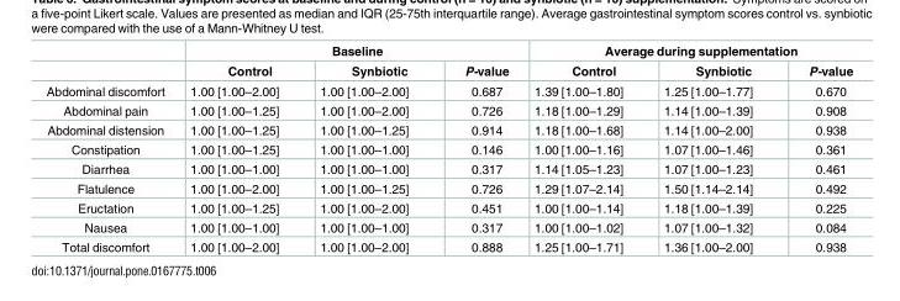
<table><thead><tr><td rowspan="2"></td><td colspan="3">Baseline</td><td colspan="3">Average during supplementation</td></tr><tr><td>Control</td><td>Synbiotic</td><td>P-value</td><td>Control</td><td>Synbiotic</td><td>P-value</td></tr></thead><tbody><tr><td>Abdominal discomfort</td><td>1.00 [1.00–2.00]</td><td>1.00 [1.00–2.00]</td><td>0.687</td><td>1.39 [1.00–1.80]</td><td>1.25 [1.00–1.77]</td><td>0.670</td></tr><tr><td>Abdominal pain</td><td>1.00 [1.00–1.25]</td><td>1.00 [1.00–2.00]</td><td>0.726</td><td>1.18 [1.00–1.29]</td><td>1.14 [1.00–1.39]</td><td>0.908</td></tr><tr><td>Abdominal distension</td><td>1.00 [1.00–1.25]</td><td>1.00 [1.00–1.25]</td><td>0.914</td><td>1.18 [1.00–1.68]</td><td>1.14 [1.00–2.00]</td><td>0.938</td></tr><tr><td>Constipation</td><td>1.00 [1.00–1.25]</td><td>1.00 [1.00–1.00]</td><td>0.146</td><td>1.00 [1.00–1.16]</td><td>1.07 [1.00–1.46]</td><td>0.361</td></tr><tr><td>Diarrhea</td><td>1.00 [1.00–1.00]</td><td>1.00 [1.00–1.00]</td><td>0.317</td><td>1.14 [1.05–1.23]</td><td>1.07 [1.00–1.23]</td><td>0.461</td></tr><tr><td>Flatulence</td><td>1.00 [1.00–2.00]</td><td>1.00 [1.00–1.25]</td><td>0.726</td><td>1.29 [1.07–2.14]</td><td>1.50 [1.14–2.14]</td><td>0.492</td></tr><tr><td>Eructation</td><td>1.00 [1.00–1.25]</td><td>1.00 [1.00–2.00]</td><td>0.451</td><td>1.00 [1.00–1.14]</td><td>1.18 [1.00–1.39]</td><td>0.225</td></tr><tr><td>Nausea</td><td>1.00 [1.00–1.00]</td><td>1.00 [1.00–1.00]</td><td>0.317</td><td>1.00 [1.00–1.02]</td><td>1.07 [1.00–1.32]</td><td>0.084</td></tr><tr><td>Total discomfort</td><td>1.00 [1.00–2.00]</td><td>1.00 [1.00–2.00]</td><td>0.888</td><td>1.25 [1.00–1.71]</td><td>1.36 [1.00–2.00]</td><td>0.938</td></tr></tbody></table>